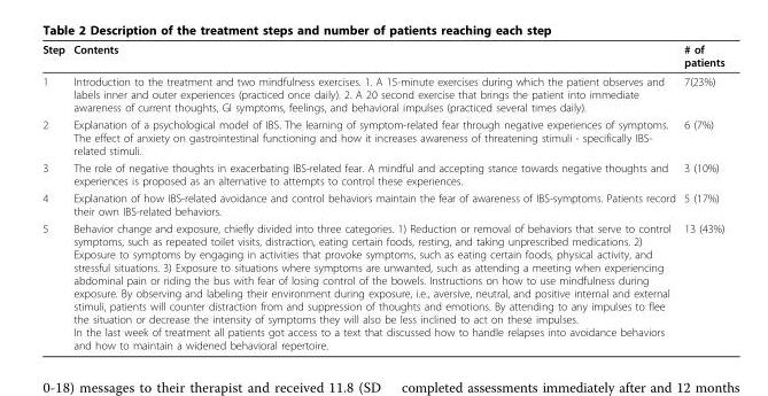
<table><thead><tr><td>Step</td><td>Contents</td><td># of patients</td></tr></thead><tbody><tr><td>1</td><td>Introduction to the treatment and two mindfulness exercises. 1. A 15-minute exercises during which the patient observes and labels inner and outer experiences (practiced once daily). 2. A 20 second exercise that brings the patient into immediate awareness of current thoughts, GI symptoms, feelings, and behavioral impulses (practiced several times daily).</td><td>7(23%)</td></tr><tr><td>2</td><td>Explanation of a psychological model of IBS. The learning of symptom-related fear through negative experiences of symptoms. The effect of anxiety on gastrointestinal functioning and how it increases awareness of threatening stimuli - specifically IBS- related stimuli.</td><td>6 (7%)</td></tr><tr><td>3</td><td>The role of negative thoughts in exacerbating IBS-related fear. A mindful and accepting stance towards negative thoughts and experiences is proposed as an alternative to attempts to control these experiences.</td><td>3 (10%)</td></tr><tr><td>4</td><td>Explanation of how IBS-related avoidance and control behaviors maintain the fear of awareness of IBS-symptoms. Patients record their own IBS-related behaviors.</td><td>5 (17%)</td></tr><tr><td>5</td><td>Behavior change and exposure, chiefly divided into three categories. 1) Reduction or removal of behaviors that serve to control symptoms, such as repeated toilet visits, distraction, eating certain foods, resting, and taking unprescribed medications. 2) Exposure to symptoms by engaging in activities that provoke symptoms, such as eating certain foods, physical activity, and stressful situations. 3) Exposure to situations where symptoms are unwanted, such as attending a meeting when experiencing abdominal pain or riding the bus with fear of losing control of the bowels. Instructions on how to use mindfulness during exposure. By observing and labeling their environment during exposure, i.e., aversive, neutral, and positive internal and external stimuli, patients will counter distraction from and suppression of thoughts and emotions. By attending to any impulses to flee the situation or decrease the intensity of symptoms they will also be less inclined to act on these impulses. In the last week of treatment all patients got access to a text that discussed how to handle relapses into avoidance behaviors and how to maintain a widened behavioral repertoire.</td><td>13 (43%)</td></tr></tbody></table>